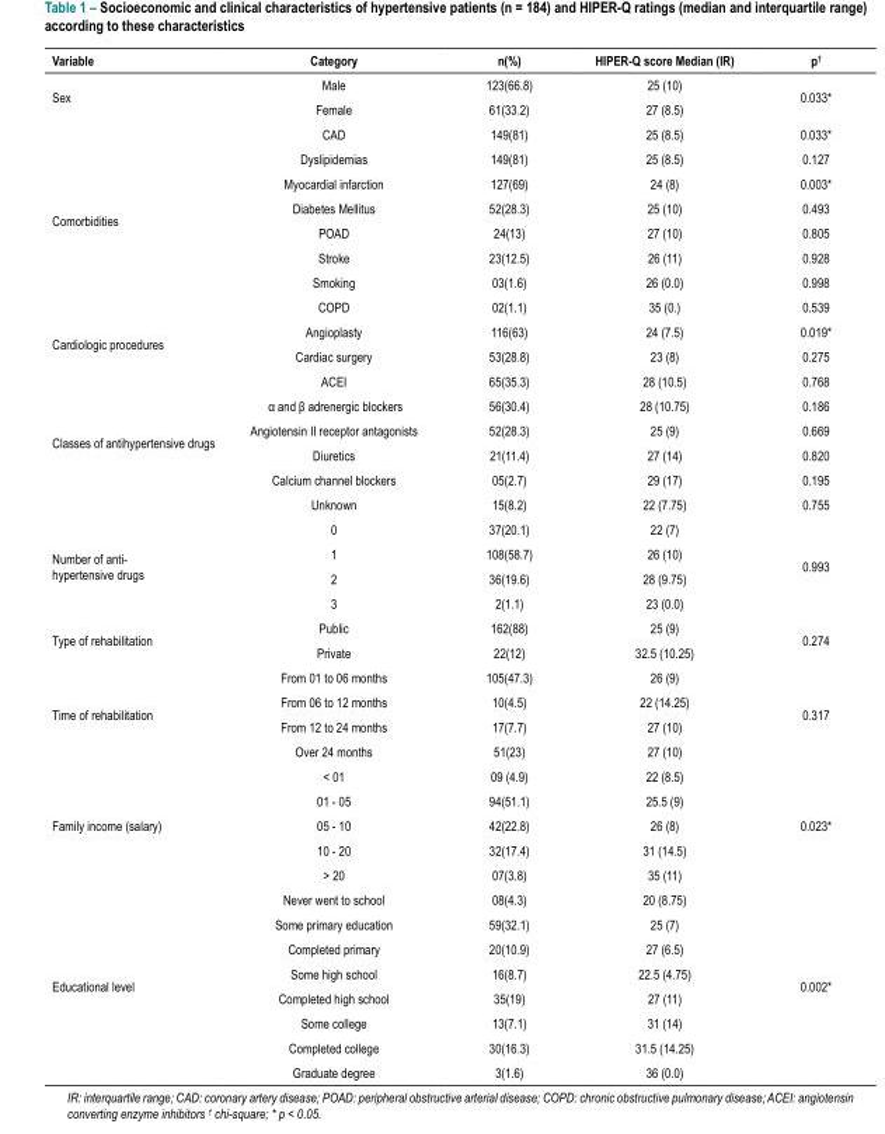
<table><thead><tr><td>Variable</td><td>Category</td><td>n(%)</td><td>HIPER-Q score Median (IR)</td><td>p<sup>†</sup></td></tr></thead><tbody><tr><td rowspan="2">Sex</td><td>Male</td><td>123(66.8)</td><td>25 (10)</td><td rowspan="2">0.033*</td></tr><tr><td>Female</td><td>61(33.2)</td><td>27 (8.5)</td></tr><tr><td rowspan="8">Comorbidities</td><td>CAD</td><td>149(81)</td><td>25 (8.5)</td><td>0.033*</td></tr><tr><td>Dyslipidemias</td><td>149(81)</td><td>25 (8.5)</td><td>0.127</td></tr><tr><td>Myocardial infarction</td><td>127(69)</td><td>24 (8)</td><td>0.003*</td></tr><tr><td>Diabetes Mellitus</td><td>52(28.3)</td><td>25 (10)</td><td>0.493</td></tr><tr><td>POAD</td><td>24(13)</td><td>27 (10)</td><td>0.805</td></tr><tr><td>Stroke</td><td>23(12.5)</td><td>26 (11)</td><td>0.928</td></tr><tr><td>Smoking</td><td>03(1.6)</td><td>26 (0.0)</td><td>0.998</td></tr><tr><td>COPD</td><td>02(1.1)</td><td>35 (0.)</td><td>0.539</td></tr><tr><td rowspan="2">Cardiologic procedures</td><td>Angioplasty</td><td>116(63)</td><td>24 (7.5)</td><td>0.019*</td></tr><tr><td>Cardiac surgery</td><td>53(28.8)</td><td>23 (8)</td><td>0.275</td></tr><tr><td rowspan="6">Classes of antihypertensive drugs</td><td>ACEI</td><td>65(35.3)</td><td>28 (10.5)</td><td>0.768</td></tr><tr><td>α and β adrenergic blockers</td><td>56(30.4)</td><td>28 (10.75)</td><td>0.186</td></tr><tr><td>Angiotensin II receptor antagonists</td><td>52(28.3)</td><td>25 (9)</td><td>0.669</td></tr><tr><td>Diuretics</td><td>21(11.4)</td><td>27 (14)</td><td>0.820</td></tr><tr><td>Calcium channel blockers</td><td>05(2.7)</td><td>29 (17)</td><td>0.195</td></tr><tr><td>Unknown</td><td>15(8.2)</td><td>22 (7.75)</td><td>0.755</td></tr><tr><td rowspan="4">Number of anti- hypertensive drugs</td><td>0</td><td>37(20.1)</td><td>22 (7)</td><td rowspan="4">0.993</td></tr><tr><td>1</td><td>108(58.7)</td><td>26 (10)</td></tr><tr><td>2</td><td>36(19.6)</td><td>28 (9.75)</td></tr><tr><td>3</td><td>2(1.1)</td><td>23 (0.0)</td></tr><tr><td rowspan="2">Type of rehabilitation</td><td>Public</td><td>162(88)</td><td>25 (9)</td><td rowspan="2">0.274</td></tr><tr><td>Private</td><td>22(12)</td><td>32.5 (10.25)</td></tr><tr><td rowspan="4">Time of rehabilitation</td><td>From 01 to 06 months</td><td>105(47.3)</td><td>26 (9)</td><td rowspan="4">0.317</td></tr><tr><td>From 06 to 12 months</td><td>10(4.5)</td><td>22 (14.25)</td></tr><tr><td>From 12 to 24 months</td><td>17(7.7)</td><td>27 (10)</td></tr><tr><td>Over 24 months</td><td>51(23)</td><td>27 (10)</td></tr><tr><td rowspan="5">Family income (salary)</td><td>&lt; 01</td><td>09 (4.9)</td><td>22 (8.5)</td><td rowspan="5">0.023*</td></tr><tr><td>01 - 05</td><td>94(51.1)</td><td>25.5 (9)</td></tr><tr><td>05 - 10</td><td>42(22.8)</td><td>26 (8)</td></tr><tr><td>10 - 20</td><td>32(17.4)</td><td>31 (14.5)</td></tr><tr><td>&gt; 20</td><td>07(3.8)</td><td>35 (11)</td></tr><tr><td rowspan="8">Educational level</td><td>Never went to school</td><td>08(4.3)</td><td>20 (8.75)</td><td rowspan="8">0.002*</td></tr><tr><td>Some primary education</td><td>59(32.1)</td><td>25 (7)</td></tr><tr><td>Completed primary</td><td>20(10.9)</td><td>27 (6.5)</td></tr><tr><td>Some high school</td><td>16(8.7)</td><td>22.5 (4.75)</td></tr><tr><td>Completed high school</td><td>35(19)</td><td>27 (11)</td></tr><tr><td>Some college</td><td>13(7.1)</td><td>31 (14)</td></tr><tr><td>Completed college</td><td>30(16.3)</td><td>31.5 (14.25)</td></tr><tr><td>Graduate degree</td><td>3(1.6)</td><td>36 (0.0)</td></tr></tbody></table>